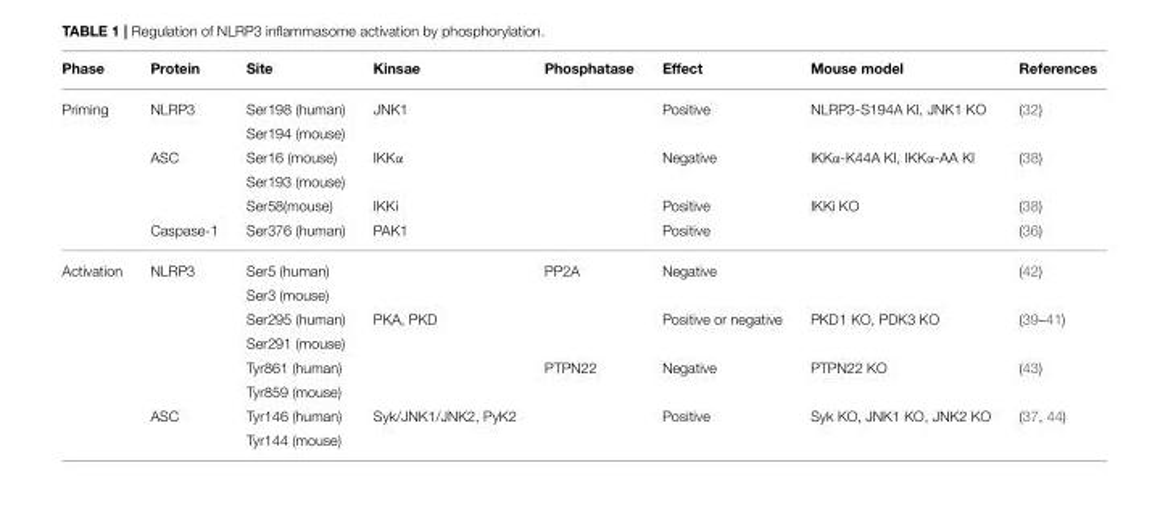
<table><thead><tr><td>Phase</td><td>Protein</td><td>Site</td><td>Kinsae</td><td>Phosphatase</td><td>Effect</td><td>Mouse model</td><td>References</td></tr></thead><tbody><tr><td rowspan="6">Priming</td><td>NLRP3</td><td>Ser198 (human)</td><td>JNK1</td><td></td><td>Positive</td><td>NLRP3-S194A KI, JNK1 KO</td><td>(32)</td></tr><tr><td></td><td>Ser194 (mouse)</td><td></td><td></td><td></td><td></td><td></td></tr><tr><td>ASC</td><td>Ser16 (mouse)</td><td>IKKα</td><td></td><td>Negative</td><td>IKKα-K44A KI, IKKα-AA KI</td><td>(38)</td></tr><tr><td></td><td>Ser193 (mouse)</td><td></td><td></td><td></td><td></td><td></td></tr><tr><td></td><td>Ser58(mouse)</td><td>IKKi</td><td></td><td>Positive</td><td>IKKi KO</td><td>(38)</td></tr><tr><td>Caspase-1</td><td>Ser376 (human)</td><td>PAK1</td><td></td><td>Positive</td><td></td><td>(36)</td></tr><tr><td rowspan="8">Activation</td><td>NLRP3</td><td>Ser5 (human)</td><td></td><td>PP2A</td><td>Negative</td><td></td><td>(42)</td></tr><tr><td></td><td>Ser3 (mouse)</td><td></td><td></td><td></td><td></td><td></td></tr><tr><td></td><td>Ser295 (human)</td><td>PKA, PKD</td><td></td><td>Positive or negative</td><td>PKD1 KO, PDK3 KO</td><td>(39–41)</td></tr><tr><td></td><td>Ser291 (mouse)</td><td></td><td></td><td></td><td></td><td></td></tr><tr><td></td><td>Tyr861 (human)</td><td></td><td>PTPN22</td><td>Negative</td><td>PTPN22 KO</td><td>(43)</td></tr><tr><td></td><td>Tyr859 (mouse)</td><td></td><td></td><td></td><td></td><td></td></tr><tr><td>ASC</td><td>Tyr146 (human)</td><td>Syk/JNK1/JNK2, PyK2</td><td></td><td>Positive</td><td>Syk KO, JNK1 KO, JNK2 KO</td><td>(37, 44)</td></tr><tr><td></td><td>Tyr144 (mouse)</td><td></td><td></td><td></td><td></td><td></td></tr></tbody></table>